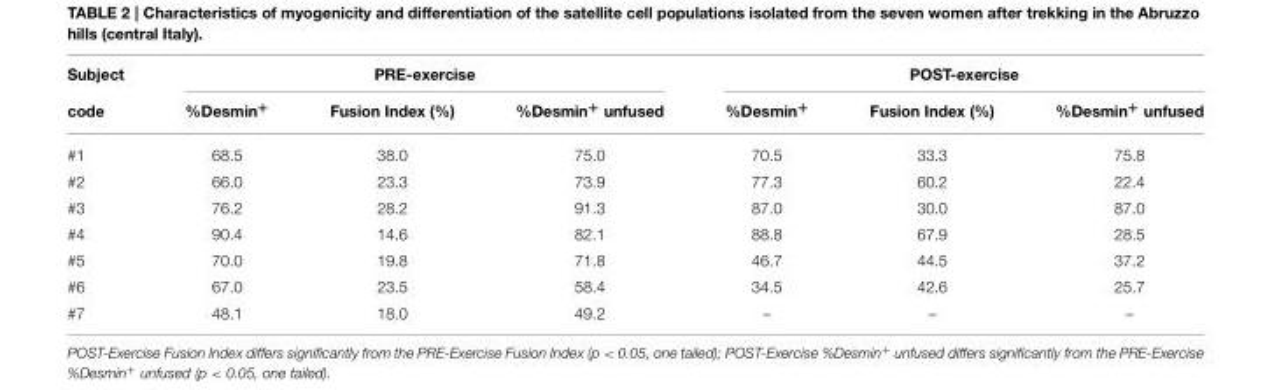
<table><thead><tr><td rowspan="2">Subject code</td><td colspan="3">PRE-exercise</td><td colspan="3">POST-exercise</td></tr><tr><td>%Desmin<sup>+</sup></td><td>Fusion Index (%)</td><td>%Desmin<sup>+</sup> unfused</td><td>%Desmin<sup>+</sup></td><td>Fusion Index (%)</td><td>%Desmin<sup>+</sup> unfused</td></tr></thead><tbody><tr><td>#1</td><td>68.5</td><td>38.0</td><td>75.0</td><td>70.5</td><td>33.3</td><td>75.8</td></tr><tr><td>#2</td><td>66.0</td><td>23.3</td><td>73.9</td><td>77.3</td><td>60.2</td><td>22.4</td></tr><tr><td>#3</td><td>76.2</td><td>28.2</td><td>91.3</td><td>87.0</td><td>30.0</td><td>87.0</td></tr><tr><td>#4</td><td>90.4</td><td>14.6</td><td>82.1</td><td>88.8</td><td>67.9</td><td>28.5</td></tr><tr><td>#5</td><td>70.0</td><td>19.8</td><td>71.8</td><td>46.7</td><td>44.5</td><td>37.2</td></tr><tr><td>#6</td><td>67.0</td><td>23.5</td><td>58.4</td><td>34.5</td><td>42.6</td><td>25.7</td></tr><tr><td>#7</td><td>48.1</td><td>18.0</td><td>49.2</td><td>–</td><td>–</td><td>–</td></tr></tbody></table>